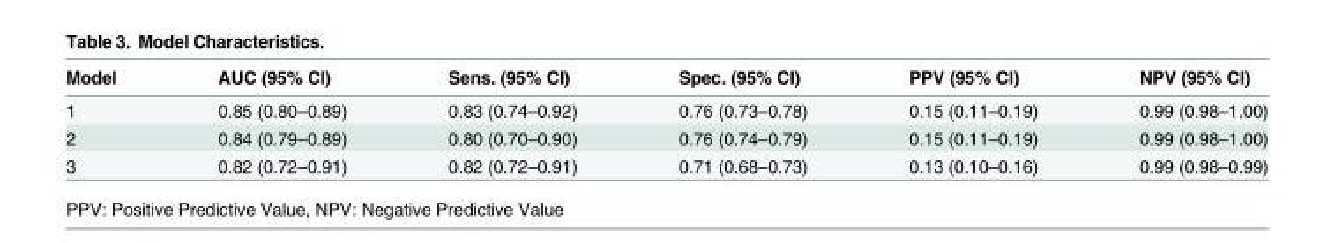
<table><thead><tr><td>Model</td><td>AUC (95% CI)</td><td>Sens. (95% CI)</td><td>Spec. (95% CI)</td><td>PPV (95% CI)</td><td>NPV (95% CI)</td></tr></thead><tbody><tr><td>1</td><td>0.85 (0.80–0.89)</td><td>0.83 (0.74–0.92)</td><td>0.76 (0.73–0.78)</td><td>0.15 (0.11–0.19)</td><td>0.99 (0.98–1.00)</td></tr><tr><td>2</td><td>0.84 (0.79–0.89)</td><td>0.80 (0.70–0.90)</td><td>0.76 (0.74–0.79)</td><td>0.15 (0.11–0.19)</td><td>0.99 (0.98–1.00)</td></tr><tr><td>3</td><td>0.82 (0.72–0.91)</td><td>0.82 (0.72–0.91)</td><td>0.71 (0.68–0.73)</td><td>0.13 (0.10–0.16)</td><td>0.99 (0.98–0.99)</td></tr></tbody></table>